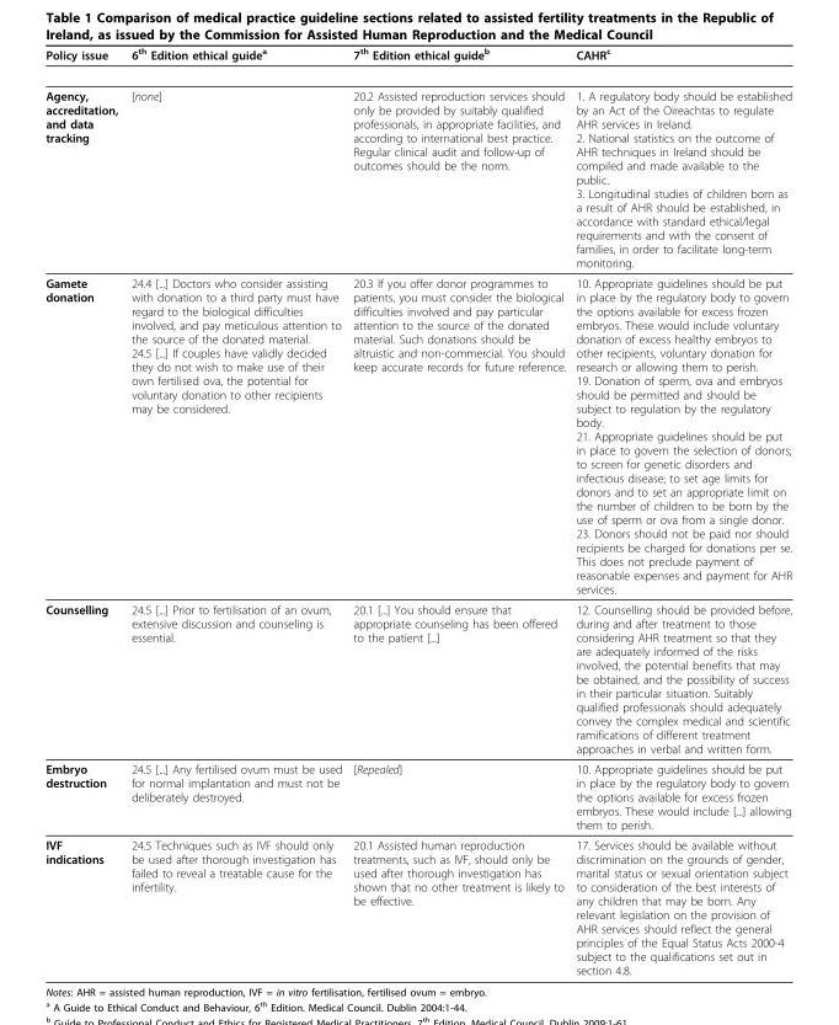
<table><thead><tr><td>Policy issue</td><td>6<sup>th</sup> Edition ethical guide<sup>a</sup></td><td>7<sup>th</sup> Edition ethical guide<sup>b</sup></td><td>CAHR<sup>c</sup></td></tr></thead><tbody><tr><td>Agency, accreditation, and data tracking</td><td>[none]</td><td>20.2 Assisted reproduction services should only be provided by suitably qualified professionals, in appropriate facilities, and according to international best practice. Regular clinical audit and follow-up of outcomes should be the norm.</td><td>1. A regulatory body should be established by an Act of the Oireachtas to regulate AHR services in Ireland. 2. National statistics on the outcome of AHR techniques in Ireland should be compiled and made available to the public. 3. Longitudinal studies of children born as a result of AHR should be established, in accordance with standard ethical/legal requirements and with the consent of families, in order to facilitate long-term monitoring.</td></tr><tr><td>Gamete donation</td><td>24.4 [...] Doctors who consider assisting with donation to a third party must have regard to the biological difficulties involved, and pay meticulous attention to the source of the donated material. 24.5 [...] If couples have validly decided they do not wish to make use of their own fertilised ova, the potential for voluntary donation to other recipients may be considered.</td><td>20.3 If you offer donor programmes to patients, you must consider the biological difficulties involved and pay particular attention to the source of the donated material. Such donations should be altruistic and non-commercial. You should keep accurate records for future reference.</td><td>10. Appropriate guidelines should be put in place by the regulatory body to govern the options available for excess frozen embryos. These would include voluntary donation of excess healthy embryos to other recipients, voluntary donation for research or allowing them to perish. 19. Donation of sperm, ova and embryos should be permitted and should be subject to regulation by the regulatory body. 21. Appropriate guidelines should be put in place to govern the selection of donors; to screen for genetic disorders and infectious disease; to set age limits for donors and to set an appropriate limit on the number of children to be born by the use of sperm or ova from a single donor. 23. Donors should not be paid nor should recipients be charged for donations per se. This does not preclude payment of reasonable expenses and payment for AHR services.</td></tr><tr><td>Counselling</td><td>24.5 [...] Prior to fertilisation of an ovum, extensive discussion and counseling is essential.</td><td>20.1 [...] You should ensure that appropriate counseling has been offered to the patient [...]</td><td>12. Counselling should be provided before, during and after treatment to those considering AHR treatment so that they are adequately informed of the risks involved, the potential benefits that may be obtained, and the possibility of success in their particular situation. Suitably qualified professionals should adequately convey the complex medical and scientific ramifications of different treatment approaches in verbal and written form.</td></tr><tr><td>Embryo destruction</td><td>24.5 [...] Any fertilised ovum must be used for normal implantation and must not be deliberately destroyed.</td><td>[Repealed]</td><td>10. Appropriate guidelines should be put in place by the regulatory body to govern the options available for excess frozen embryos. These would include [...] allowing them to perish.</td></tr><tr><td>IVF indications</td><td>24.5 Techniques such as IVF should only be used after thorough investigation has failed to reveal a treatable cause for the infertility.</td><td>20.1 Assisted human reproduction treatments, such as IVF, should only be used after thorough investigation has shown that no other treatment is likely to be effective.</td><td>17. Services should be available without discrimination on the grounds of gender, marital status or sexual orientation subject to consideration of the best interests of any children that may be born. Any relevant legislation on the provision of AHR services should reflect the general principles of the Equal Status Acts 2000-4 subject to the qualifications set out in section 4.8.</td></tr></tbody></table>